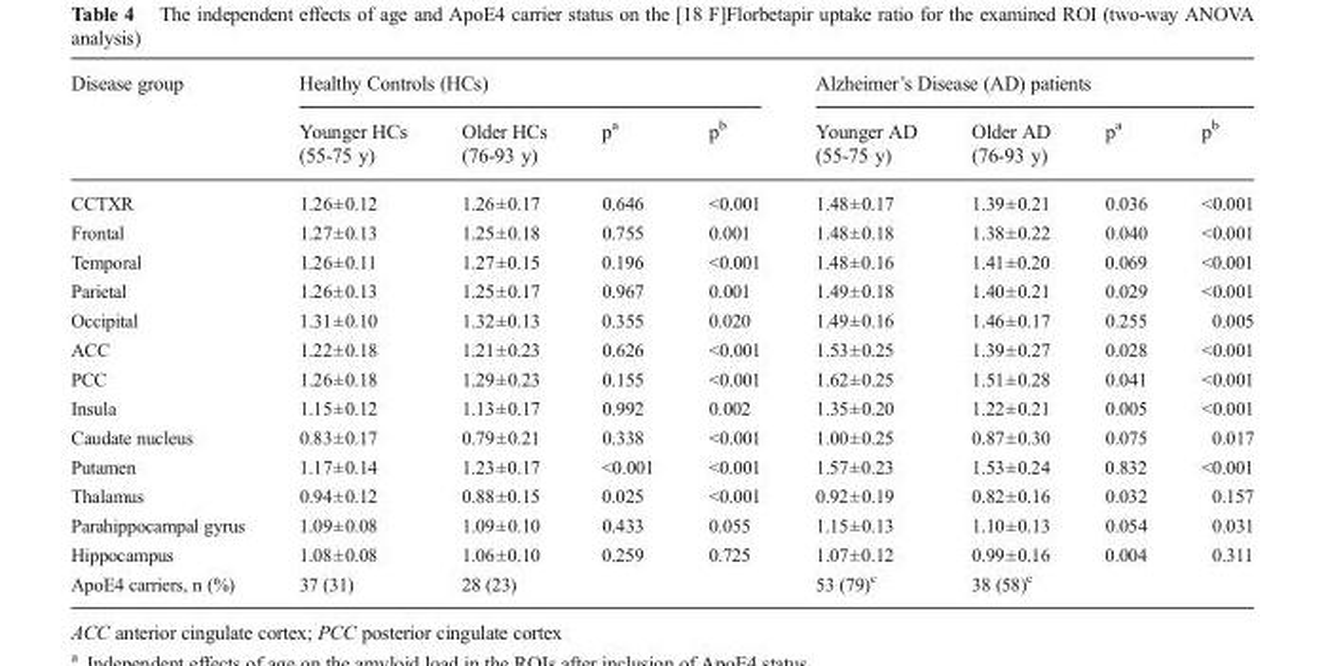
<table><thead><tr><td rowspan="2">Disease group</td><td colspan="4">Healthy Controls (HCs)</td><td colspan="4">Alzheimer’s Disease (AD) patients</td></tr><tr><td>Younger HCs (55-75 y)</td><td>Older HCs (76-93 y)</td><td>p<sup>a</sup></td><td>p<sup>b</sup></td><td>Younger AD (55-75 y)</td><td>Older AD (76-93 y)</td><td>p<sup>a</sup></td><td>p<sup>b</sup></td></tr></thead><tbody><tr><td>CCTXR</td><td>1.26±0.12</td><td>1.26±0.17</td><td>0.646</td><td>&lt;0.001</td><td>1.48±0.17</td><td>1.39±0.21</td><td>0.036</td><td>&lt;0.001</td></tr><tr><td>Frontal</td><td>1.27±0.13</td><td>1.25±0.18</td><td>0.755</td><td>0.001</td><td>1.48±0.18</td><td>1.38±0.22</td><td>0.040</td><td>&lt;0.001</td></tr><tr><td>Temporal</td><td>1.26±0.11</td><td>1.27±0.15</td><td>0.196</td><td>&lt;0.001</td><td>1.48±0.16</td><td>1.41±0.20</td><td>0.069</td><td>&lt;0.001</td></tr><tr><td>Parietal</td><td>1.26±0.13</td><td>1.25±0.17</td><td>0.967</td><td>0.001</td><td>1.49±0.18</td><td>1.40±0.21</td><td>0.029</td><td>&lt;0.001</td></tr><tr><td>Occipital</td><td>1.31±0.10</td><td>1.32±0.13</td><td>0.355</td><td>0.020</td><td>1.49±0.16</td><td>1.46±0.17</td><td>0.255</td><td>0.005</td></tr><tr><td>ACC</td><td>1.22±0.18</td><td>1.21±0.23</td><td>0.626</td><td>&lt;0.001</td><td>1.53±0.25</td><td>1.39±0.27</td><td>0.028</td><td>&lt;0.001</td></tr><tr><td>PCC</td><td>1.26±0.18</td><td>1.29±0.23</td><td>0.155</td><td>&lt;0.001</td><td>1.62±0.25</td><td>1.51±0.28</td><td>0.041</td><td>&lt;0.001</td></tr><tr><td>Insula</td><td>1.15±0.12</td><td>1.13±0.17</td><td>0.992</td><td>0.002</td><td>1.35±0.20</td><td>1.22±0.21</td><td>0.005</td><td>&lt;0.001</td></tr><tr><td>Caudate nucleus</td><td>0.83±0.17</td><td>0.79±0.21</td><td>0.338</td><td>&lt;0.001</td><td>1.00±0.25</td><td>0.87±0.30</td><td>0.075</td><td>0.017</td></tr><tr><td>Putamen</td><td>1.17±0.14</td><td>1.23±0.17</td><td>&lt;0.001</td><td>&lt;0.001</td><td>1.57±0.23</td><td>1.53±0.24</td><td>0.832</td><td>&lt;0.001</td></tr><tr><td>Thalamus</td><td>0.94±0.12</td><td>0.88±0.15</td><td>0.025</td><td>&lt;0.001</td><td>0.92±0.19</td><td>0.82±0.16</td><td>0.032</td><td>0.157</td></tr><tr><td>Parahippocampal gyrus</td><td>1.09±0.08</td><td>1.09±0.10</td><td>0.433</td><td>0.055</td><td>1.15±0.13</td><td>1.10±0.13</td><td>0.054</td><td>0.031</td></tr><tr><td>Hippocampus</td><td>1.08±0.08</td><td>1.06±0.10</td><td>0.259</td><td>0.725</td><td>1.07±0.12</td><td>0.99±0.16</td><td>0.004</td><td>0.311</td></tr><tr><td>ApoE4 carriers, n (%)</td><td>37 (31)</td><td>28 (23)</td><td></td><td></td><td>53 (79)<sup>c</sup></td><td>38 (58)<sup>c</sup></td><td></td><td></td></tr></tbody></table>